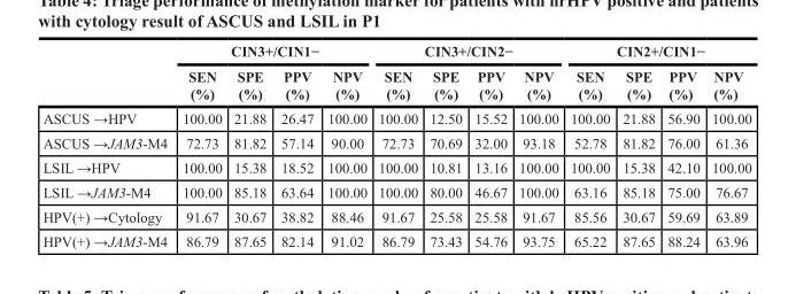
<table><thead><tr><td rowspan="2"></td><td colspan="4">CIN3+/CIN1−</td><td colspan="4">CIN3+/CIN2−</td><td colspan="4">CIN2+/CIN1−</td></tr><tr><td>SEN (%)</td><td>SPE (%)</td><td>PPV (%)</td><td>NPV (%)</td><td>SEN (%)</td><td>SPE (%)</td><td>PPV (%)</td><td>NPV (%)</td><td>SEN (%)</td><td>SPE (%)</td><td>PPV (%)</td><td>NPV (%)</td></tr></thead><tbody><tr><td>ASCUS →HPV</td><td>100.00</td><td>21.88</td><td>26.47</td><td>100.00</td><td>100.00</td><td>12.50</td><td>15.52</td><td>100.00</td><td>100.00</td><td>21.88</td><td>56.90</td><td>100.00</td></tr><tr><td>ASCUS →JAM3-M4</td><td>72.73</td><td>81.82</td><td>57.14</td><td>90.00</td><td>72.73</td><td>70.69</td><td>32.00</td><td>93.18</td><td>52.78</td><td>81.82</td><td>76.00</td><td>61.36</td></tr><tr><td>LSIL →HPV</td><td>100.00</td><td>15.38</td><td>18.52</td><td>100.00</td><td>100.00</td><td>10.81</td><td>13.16</td><td>100.00</td><td>100.00</td><td>15.38</td><td>42.10</td><td>100.00</td></tr><tr><td>LSIL →JAM3-M4</td><td>100.00</td><td>85.18</td><td>63.64</td><td>100.00</td><td>100.00</td><td>80.00</td><td>46.67</td><td>100.00</td><td>63.16</td><td>85.18</td><td>75.00</td><td>76.67</td></tr><tr><td>HPV(+) →Cytology</td><td>91.67</td><td>30.67</td><td>38.82</td><td>88.46</td><td>91.67</td><td>25.58</td><td>25.58</td><td>91.67</td><td>85.56</td><td>30.67</td><td>59.69</td><td>63.89</td></tr><tr><td>HPV(+) →JAM3-M4</td><td>86.79</td><td>87.65</td><td>82.14</td><td>91.02</td><td>86.79</td><td>73.43</td><td>54.76</td><td>93.75</td><td>65.22</td><td>87.65</td><td>88.24</td><td>63.96</td></tr></tbody></table>